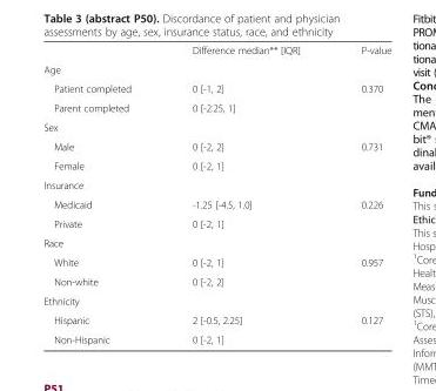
<table><thead><tr><td></td><td>Difference median** [IQR]</td><td>P-value</td></tr></thead><tbody><tr><td colspan="3">Age</td></tr><tr><td>Patient completed</td><td>0 [-1, 2]</td><td rowspan="2">0.370</td></tr><tr><td>Parent completed</td><td>0 [-2.25, 1]</td></tr><tr><td colspan="3">Sex</td></tr><tr><td>Male</td><td>0 [-2, 2]</td><td rowspan="2">0.731</td></tr><tr><td>Female</td><td>0 [-2, 1]</td></tr><tr><td colspan="3">Insurance</td></tr><tr><td>Medicaid</td><td>-1.25 [-4.5, 1.0]</td><td rowspan="2">0.226</td></tr><tr><td>Private</td><td>0 [-2, 1]</td></tr><tr><td colspan="3">Race</td></tr><tr><td>White</td><td>0 [-2, 1]</td><td rowspan="2">0.957</td></tr><tr><td>Non-white</td><td>0 [-2, 2]</td></tr><tr><td colspan="3">Ethnicity</td></tr><tr><td>Hispanic</td><td>2 [-0.5, 2.25]</td><td rowspan="2">0.127</td></tr><tr><td>Non-Hispanic</td><td>0 [-2, 1]</td></tr></tbody></table>